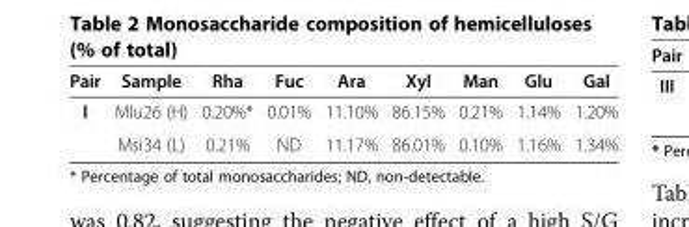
<table><thead><tr><td>Pair</td><td>Sample</td><td>Rha</td><td>Fuc</td><td>Ara</td><td>Xyl</td><td>Man</td><td>Glu</td><td>Gal</td></tr></thead><tbody><tr><td rowspan="2">I</td><td>Mlu26 (H)</td><td>0.20%*</td><td>0.01%</td><td>11.10%</td><td>86.15%</td><td>0.21%</td><td>1.14%</td><td>1.20%</td></tr><tr><td>Msi34 (L)</td><td>0.21%</td><td>ND</td><td>11.17%</td><td>86.01%</td><td>0.10%</td><td>1.16%</td><td>1.34%</td></tr></tbody></table>